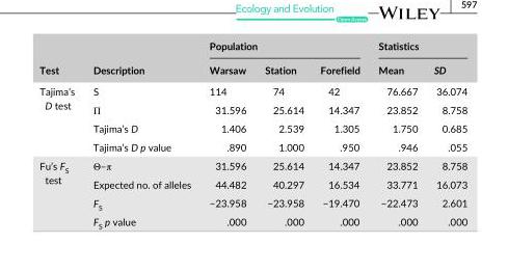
<table><thead><tr><td rowspan="2">Test</td><td rowspan="2">Description</td><td colspan="3">Population</td><td colspan="2">Statistics</td></tr><tr><td>Warsaw</td><td>Station</td><td>Forefield</td><td>Mean</td><td>SD</td></tr></thead><tbody><tr><td rowspan="4">Tajima’s D test</td><td>S</td><td>114</td><td>74</td><td>42</td><td>76.667</td><td>36.074</td></tr><tr><td>Π</td><td>31.596</td><td>25.614</td><td>14.347</td><td>23.852</td><td>8.758</td></tr><tr><td>Tajima’s D</td><td>1.406</td><td>2.539</td><td>1.305</td><td>1.750</td><td>0.685</td></tr><tr><td>Tajima’s D p value</td><td>.890</td><td>1.000</td><td>.950</td><td>.946</td><td>.055</td></tr><tr><td rowspan="4">Fu’s F<sub>S</sub> test</td><td>Θ–π</td><td>31.596</td><td>25.614</td><td>14.347</td><td>23.852</td><td>8.758</td></tr><tr><td>Expected no. of alleles</td><td>44.482</td><td>40.297</td><td>16.534</td><td>33.771</td><td>16.073</td></tr><tr><td>F<sub>S</sub></td><td>−23.958</td><td>−23.958</td><td>−19.470</td><td>−22.473</td><td>2.601</td></tr><tr><td>F<sub>S</sub> p value</td><td>.000</td><td>.000</td><td>.000</td><td>.000</td><td>.000</td></tr></tbody></table>